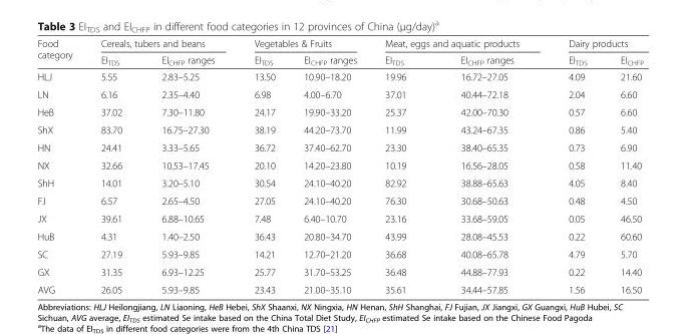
<table><thead><tr><td rowspan="2">Food category</td><td colspan="2">Cereals, tubers and beans</td><td colspan="2">Vegetables &amp; Fruits</td><td colspan="2">Meat, eggs and aquatic products</td><td colspan="2">Dairy products</td></tr><tr><td>EI<sub>TDS</sub></td><td>EI<sub>CHFP</sub> ranges</td><td>EI<sub>TDS</sub></td><td>EI<sub>CHFP</sub> ranges</td><td>EI<sub>TDS</sub></td><td>EI<sub>CHFP</sub> ranges</td><td>EI<sub>TDS</sub></td><td>EI<sub>CHFP</sub></td></tr></thead><tbody><tr><td>HLJ</td><td>5.55</td><td>2.83–5.25</td><td>13.50</td><td>10.90–18.20</td><td>19.96</td><td>16.72–27.05</td><td>4.09</td><td>21.60</td></tr><tr><td>LN</td><td>6.16</td><td>2.35–4.40</td><td>6.98</td><td>4.00–6.70</td><td>37.01</td><td>40.44–72.18</td><td>2.04</td><td>6.60</td></tr><tr><td>HeB</td><td>37.02</td><td>7.30–11.80</td><td>24.17</td><td>19.90–33.20</td><td>25.37</td><td>42.00–70.30</td><td>0.57</td><td>6.60</td></tr><tr><td>ShX</td><td>83.70</td><td>16.75–27.30</td><td>38.19</td><td>44.20–73.70</td><td>11.99</td><td>43.24–67.35</td><td>0.86</td><td>5.40</td></tr><tr><td>HN</td><td>24.41</td><td>3.33–5.65</td><td>36.72</td><td>37.40–62.70</td><td>23.30</td><td>38.40–65.35</td><td>0.73</td><td>6.90</td></tr><tr><td>NX</td><td>32.66</td><td>10.53–17.45</td><td>20.10</td><td>14.20–23.80</td><td>10.19</td><td>16.56–28.05</td><td>0.58</td><td>11.40</td></tr><tr><td>ShH</td><td>14.01</td><td>3.20–5.10</td><td>30.54</td><td>24.10–40.20</td><td>82.92</td><td>38.88–65.63</td><td>4.05</td><td>8.40</td></tr><tr><td>FJ</td><td>6.57</td><td>2.65–4.50</td><td>27.05</td><td>24.10–40.20</td><td>76.30</td><td>30.68–50.63</td><td>0.48</td><td>4.50</td></tr><tr><td>JX</td><td>39.61</td><td>6.88–10.65</td><td>7.48</td><td>6.40–10.70</td><td>23.16</td><td>33.68–59.05</td><td>0.05</td><td>46.50</td></tr><tr><td>HuB</td><td>4.31</td><td>1.40–2.50</td><td>36.43</td><td>20.80–34.70</td><td>43.99</td><td>28.08–45.53</td><td>0.22</td><td>60.60</td></tr><tr><td>SC</td><td>27.19</td><td>5.93–9.85</td><td>14.21</td><td>12.70–21.20</td><td>36.68</td><td>40.08–65.78</td><td>4.79</td><td>5.70</td></tr><tr><td>GX</td><td>31.35</td><td>6.93–12.25</td><td>25.77</td><td>31.70–53.25</td><td>36.48</td><td>44.88–77.93</td><td>0.22</td><td>14.40</td></tr><tr><td>AVG</td><td>26.05</td><td>5.93–9.85</td><td>23.43</td><td>21.00–35.10</td><td>35.61</td><td>34.44–57.85</td><td>1.56</td><td>16.50</td></tr></tbody></table>